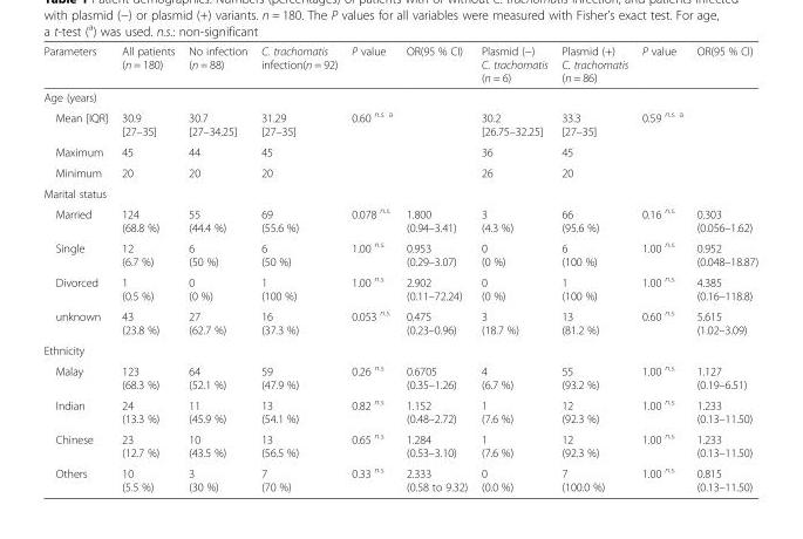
<table><thead><tr><td>Parameters</td><td>All patients (n = 180)</td><td>No infection (n = 88)</td><td>C. trachomatis infection(n = 92)</td><td>P value</td><td>OR(95 % CI)</td><td>Plasmid (−) C. trachomatis (n = 6)</td><td>Plasmid (+) C. trachomatis (n = 86)</td><td>P value</td><td>OR(95 % CI)</td></tr></thead><tbody><tr><td colspan="10">Age (years)</td></tr><tr><td>Mean [IQR]</td><td>30.9 [27–35]</td><td>30.7 [27–34.25]</td><td>31.29 [27–35]</td><td>0.60 <sup>n.s. a</sup></td><td></td><td>30.2 [26.75–32.25]</td><td>33.3 [27–35]</td><td>0.59 <sup>n.s. a</sup></td><td></td></tr><tr><td>Maximum</td><td>45</td><td>44</td><td>45</td><td></td><td></td><td>36</td><td>45</td><td></td><td></td></tr><tr><td>Minimum</td><td>20</td><td>20</td><td>20</td><td></td><td></td><td>26</td><td>20</td><td></td><td></td></tr><tr><td colspan="10">Marital status</td></tr><tr><td>Married</td><td>124 (68.8 %)</td><td>55 (44.4 %)</td><td>69 (55.6 %)</td><td>0.078 <sup>n.s.</sup></td><td>1.800 (0.94–3.41)</td><td>3 (4.3 %)</td><td>66 (95.6 %)</td><td>0.16 <sup>n.s.</sup></td><td>0.303 (0.056–1.62)</td></tr><tr><td>Single</td><td>12 (6.7 %)</td><td>6 (50 %)</td><td>6 (50 %)</td><td>1.00 <sup>n.s.</sup></td><td>0.953 (0.29–3.07)</td><td>0 (0 %)</td><td>6 (100 %)</td><td>1.00 <sup>n.s.</sup></td><td>0.952 (0.048–18.87)</td></tr><tr><td>Divorced</td><td>1 (0.5 %)</td><td>0 (0 %)</td><td>1 (100 %)</td><td>1.00 <sup>n.s.</sup></td><td>2.902 (0.11–72.24)</td><td>0 (0 %)</td><td>1 (100 %)</td><td>1.00 <sup>n.s.</sup></td><td>4.385 (0.16–118.8)</td></tr><tr><td>unknown</td><td>43 (23.8 %)</td><td>27 (62.7 %)</td><td>16 (37.3 %)</td><td>0.053 <sup>n.s.</sup></td><td>0.475 (0.23–0.96)</td><td>3 (18.7 %)</td><td>13 (81.2 %)</td><td>0.60 <sup>n.s.</sup></td><td>5.615 (1.02–3.09)</td></tr><tr><td colspan="10">Ethnicity</td></tr><tr><td>Malay</td><td>123 (68.3 %)</td><td>64 (52.1 %)</td><td>59 (47.9 %)</td><td>0.26 <sup>n.s.</sup></td><td>0.6705 (0.35–1.26)</td><td>4 (6.7 %)</td><td>55 (93.2 %)</td><td>1.00 <sup>n.s.</sup></td><td>1.127 (0.19–6.51)</td></tr><tr><td>Indian</td><td>24 (13.3 %)</td><td>11 (45.9 %)</td><td>13 (54.1 %)</td><td>0.82 <sup>n.s.</sup></td><td>1.152 (0.48–2.72)</td><td>1 (7.6 %)</td><td>12 (92.3 %)</td><td>1.00 <sup>n.s.</sup></td><td>1.233 (0.13–11.50)</td></tr><tr><td>Chinese</td><td>23 (12.7 %)</td><td>10 (43.5 %)</td><td>13 (56.5 %)</td><td>0.65 <sup>n.s.</sup></td><td>1.284 (0.53–3.10)</td><td>1 (7.6 %)</td><td>12 (92.3 %)</td><td>1.00 <sup>n.s.</sup></td><td>1.233 (0.13–11.50)</td></tr><tr><td>Others</td><td>10 (5.5 %)</td><td>3 (30 %)</td><td>7 (70 %)</td><td>0.33 <sup>n.s.</sup></td><td>2.333 (0.58 to 9.32)</td><td>0 (0.0 %)</td><td>7 (100.0 %)</td><td>1.00 <sup>n.s.</sup></td><td>0.815 (0.13–11.50)</td></tr></tbody></table>